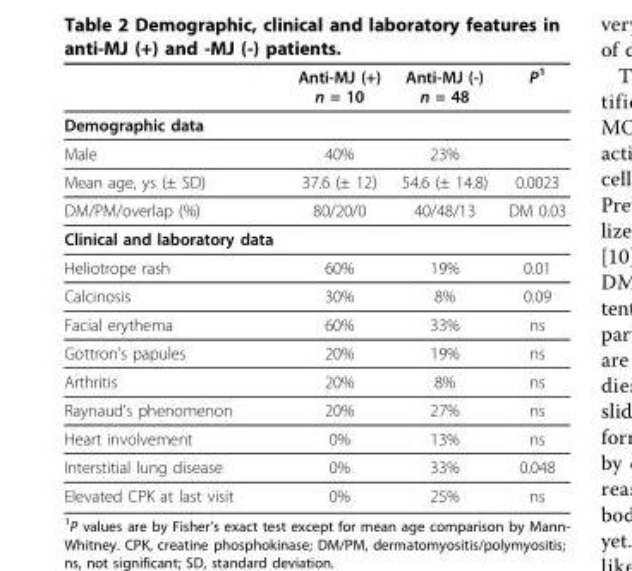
<table><thead><tr><td></td><td>Anti-MJ (+) n = 10</td><td>Anti-MJ (-) n = 48</td><td>P<sup>1</sup></td></tr></thead><tbody><tr><td colspan="4">Demographic data</td></tr><tr><td>Male</td><td>40%</td><td>23%</td><td></td></tr><tr><td>Mean age, ys (± SD)</td><td>37.6 (± 12)</td><td>54.6 (± 14.8)</td><td>0.0023</td></tr><tr><td>DM/PM/overlap (%)</td><td>80/20/0</td><td>40/48/13</td><td>DM 0.03</td></tr><tr><td colspan="4">Clinical and laboratory data</td></tr><tr><td>Heliotrope rash</td><td>60%</td><td>19%</td><td>0.01</td></tr><tr><td>Calcinosis</td><td>30%</td><td>8%</td><td>0.09</td></tr><tr><td>Facial erythema</td><td>60%</td><td>33%</td><td>ns</td></tr><tr><td>Gottron’s papules</td><td>20%</td><td>19%</td><td>ns</td></tr><tr><td>Arthritis</td><td>20%</td><td>8%</td><td>ns</td></tr><tr><td>Raynaud’s phenomenon</td><td>20%</td><td>27%</td><td>ns</td></tr><tr><td>Heart involvement</td><td>0%</td><td>13%</td><td>ns</td></tr><tr><td>Interstitial lung disease</td><td>0%</td><td>33%</td><td>0.048</td></tr><tr><td>Elevated CPK at last visit</td><td>0%</td><td>25%</td><td>ns</td></tr></tbody></table>